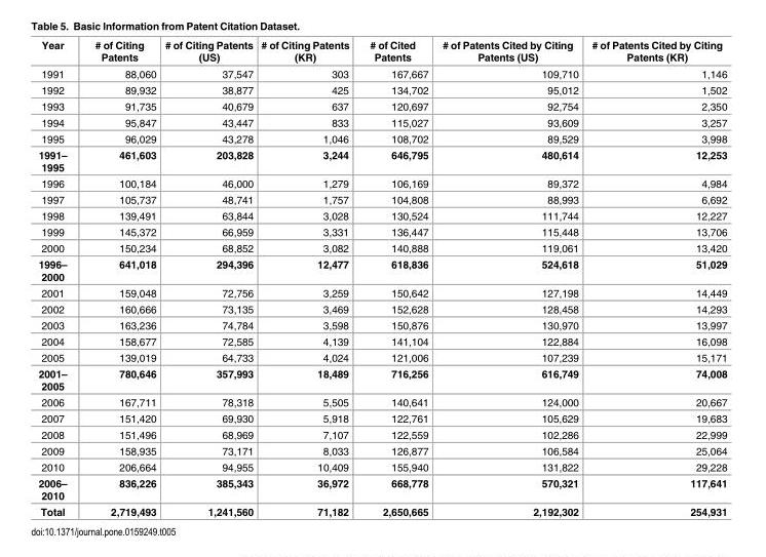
<table><thead><tr><td>Year</td><td># of Citing Patents</td><td># of Citing Patents (US)</td><td># of Citing Patents (KR)</td><td># of Cited Patents</td><td># of Patents Cited by Citing Patents (US)</td><td># of Patents Cited by Citing Patents (KR)</td></tr></thead><tbody><tr><td>1991</td><td>88,060</td><td>37,547</td><td>303</td><td>167,667</td><td>109,710</td><td>1,146</td></tr><tr><td>1992</td><td>89,932</td><td>38,877</td><td>425</td><td>134,702</td><td>95,012</td><td>1,502</td></tr><tr><td>1993</td><td>91,735</td><td>40,679</td><td>637</td><td>120,697</td><td>92,754</td><td>2,350</td></tr><tr><td>1994</td><td>95,847</td><td>43,447</td><td>833</td><td>115,027</td><td>93,609</td><td>3,257</td></tr><tr><td>1995</td><td>96,029</td><td>43,278</td><td>1,046</td><td>108,702</td><td>89,529</td><td>3,998</td></tr><tr><td>1991– 1995</td><td>461,603</td><td>203,828</td><td>3,244</td><td>646,795</td><td>480,614</td><td>12,253</td></tr><tr><td>1996</td><td>100,184</td><td>46,000</td><td>1,279</td><td>106,169</td><td>89,372</td><td>4,984</td></tr><tr><td>1997</td><td>105,737</td><td>48,741</td><td>1,757</td><td>104,808</td><td>88,993</td><td>6,692</td></tr><tr><td>1998</td><td>139,491</td><td>63,844</td><td>3,028</td><td>130,524</td><td>111,744</td><td>12,227</td></tr><tr><td>1999</td><td>145,372</td><td>66,959</td><td>3,331</td><td>136,447</td><td>115,448</td><td>13,706</td></tr><tr><td>2000</td><td>150,234</td><td>68,852</td><td>3,082</td><td>140,888</td><td>119,061</td><td>13,420</td></tr><tr><td>1996– 2000</td><td>641,018</td><td>294,396</td><td>12,477</td><td>618,836</td><td>524,618</td><td>51,029</td></tr><tr><td>2001</td><td>159,048</td><td>72,756</td><td>3,259</td><td>150,642</td><td>127,198</td><td>14,449</td></tr><tr><td>2002</td><td>160,666</td><td>73,135</td><td>3,469</td><td>152,628</td><td>128,458</td><td>14,293</td></tr><tr><td>2003</td><td>163,236</td><td>74,784</td><td>3,598</td><td>150,876</td><td>130,970</td><td>13,997</td></tr><tr><td>2004</td><td>158,677</td><td>72,585</td><td>4,139</td><td>141,104</td><td>122,884</td><td>16,098</td></tr><tr><td>2005</td><td>139,019</td><td>64,733</td><td>4,024</td><td>121,006</td><td>107,239</td><td>15,171</td></tr><tr><td>2001– 2005</td><td>780,646</td><td>357,993</td><td>18,489</td><td>716,256</td><td>616,749</td><td>74,008</td></tr><tr><td>2006</td><td>167,711</td><td>78,318</td><td>5,505</td><td>140,641</td><td>124,000</td><td>20,667</td></tr><tr><td>2007</td><td>151,420</td><td>69,930</td><td>5,918</td><td>122,761</td><td>105,629</td><td>19,683</td></tr><tr><td>2008</td><td>151,496</td><td>68,969</td><td>7,107</td><td>122,559</td><td>102,286</td><td>22,999</td></tr><tr><td>2009</td><td>158,935</td><td>73,171</td><td>8,033</td><td>126,877</td><td>106,584</td><td>25,064</td></tr><tr><td>2010</td><td>206,664</td><td>94,955</td><td>10,409</td><td>155,940</td><td>131,822</td><td>29,228</td></tr><tr><td>2006– 2010</td><td>836,226</td><td>385,343</td><td>36,972</td><td>668,778</td><td>570,321</td><td>117,641</td></tr><tr><td>Total</td><td>2,719,493</td><td>1,241,560</td><td>71,182</td><td>2,650,665</td><td>2,192,302</td><td>254,931</td></tr></tbody></table>